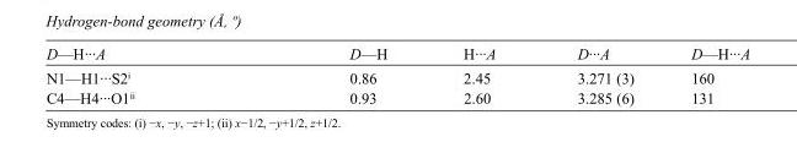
<table><tbody><tr><td>D—H···A</td><td>D—H</td><td>H···A</td><td>D···A</td><td>D—H···A</td></tr><tr><td>N1—H1···S2<sup>i</sup></td><td>0.86</td><td>2.45</td><td>3.271 (3)</td><td>160</td></tr><tr><td>C4—H4···O1<sup>ii</sup></td><td>0.93</td><td>2.60</td><td>3.285 (6)</td><td>131</td></tr></tbody></table>